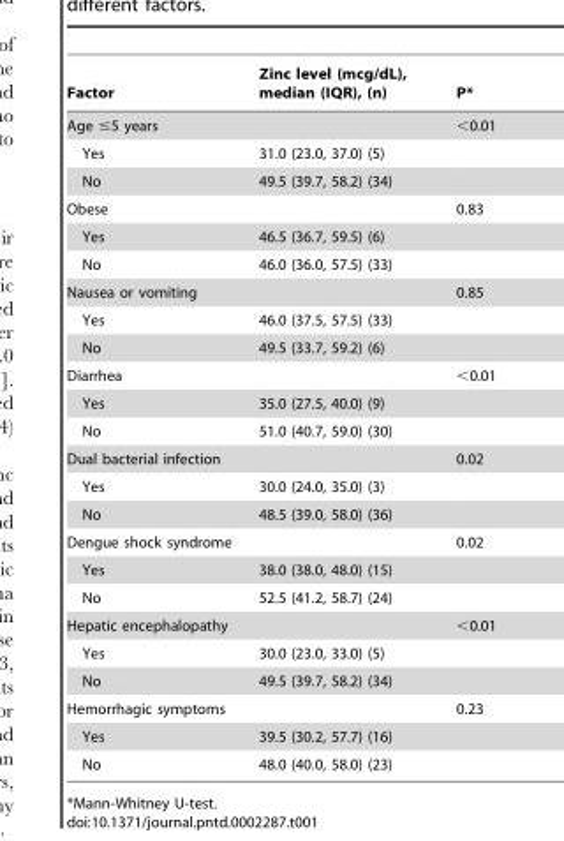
<table><thead><tr><td>Factor</td><td>Zinc level (mcg/dL), median (IQR), (n)</td><td>P*</td></tr></thead><tbody><tr><td>Age ≤5 years</td><td></td><td>&lt;0.01</td></tr><tr><td>Yes</td><td>31.0 (23.0, 37.0) (5)</td><td></td></tr><tr><td>No</td><td>49.5 (39.7, 58.2) (34)</td><td></td></tr><tr><td>Obese</td><td></td><td>0.83</td></tr><tr><td>Yes</td><td>46.5 (36.7, 59.5) (6)</td><td></td></tr><tr><td>No</td><td>46.0 (36.0, 57.5) (33)</td><td></td></tr><tr><td>Nausea or vomiting</td><td></td><td>0.85</td></tr><tr><td>Yes</td><td>46.0 (37.5, 57.5) (33)</td><td></td></tr><tr><td>No</td><td>49.5 (33.7, 59.2) (6)</td><td></td></tr><tr><td>Diarrhea</td><td></td><td>&lt;0.01</td></tr><tr><td>Yes</td><td>35.0 (27.5, 40.0) (9)</td><td></td></tr><tr><td>No</td><td>51.0 (40.7, 59.0) (30)</td><td></td></tr><tr><td>Dual bacterial infection</td><td></td><td>0.02</td></tr><tr><td>Yes</td><td>30.0 (24.0, 35.0) (3)</td><td></td></tr><tr><td>No</td><td>48.5 (39.0, 58.0) (36)</td><td></td></tr><tr><td>Dengue shock syndrome</td><td></td><td>0.02</td></tr><tr><td>Yes</td><td>38.0 (38.0, 48.0) (15)</td><td></td></tr><tr><td>No</td><td>52.5 (41.2, 58.7) (24)</td><td></td></tr><tr><td>Hepatic encephalopathy</td><td></td><td>&lt;0.01</td></tr><tr><td>Yes</td><td>30.0 (23.0, 33.0) (5)</td><td></td></tr><tr><td>No</td><td>49.5 (39.7, 58.2) (34)</td><td></td></tr><tr><td>Hemorrhagic symptoms</td><td></td><td>0.23</td></tr><tr><td>Yes</td><td>39.5 (30.2, 57.7) (16)</td><td></td></tr><tr><td>No</td><td>48.0 (40.0, 58.0) (23)</td><td></td></tr></tbody></table>